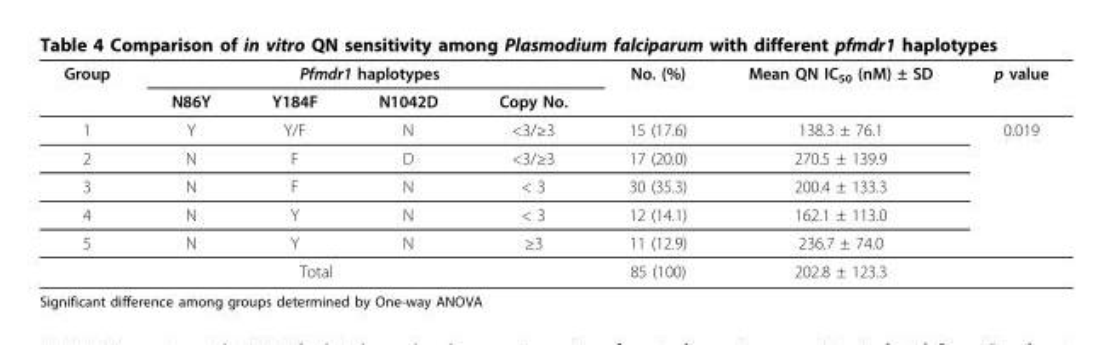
<table><thead><tr><td rowspan="2">Group</td><td colspan="4">Pfmdr1 haplotypes</td><td rowspan="2">No. (%)</td><td rowspan="2">Mean QN IC<sub>50</sub> (nM) ± SD</td><td rowspan="2">p value</td></tr><tr><td>N86Y</td><td>Y184F</td><td>N1042D</td><td>Copy No.</td></tr></thead><tbody><tr><td>1</td><td>Y</td><td>Y/F</td><td>N</td><td>&lt;3/≥3</td><td>15 (17.6)</td><td>138.3 ± 76.1</td><td>0.019</td></tr><tr><td>2</td><td>N</td><td>F</td><td>D</td><td>&lt;3/≥3</td><td>17 (20.0)</td><td>270.5 ± 139.9</td><td></td></tr><tr><td>3</td><td>N</td><td>F</td><td>N</td><td>&lt; 3</td><td>30 (35.3)</td><td>200.4 ± 133.3</td><td></td></tr><tr><td>4</td><td>N</td><td>Y</td><td>N</td><td>&lt; 3</td><td>12 (14.1)</td><td>162.1 ± 113.0</td><td></td></tr><tr><td>5</td><td>N</td><td>Y</td><td>N</td><td>≥3</td><td>11 (12.9)</td><td>236.7 ± 74.0</td><td></td></tr><tr><td colspan="5">Total</td><td>85 (100)</td><td>202.8 ± 123.3</td><td></td></tr></tbody></table>